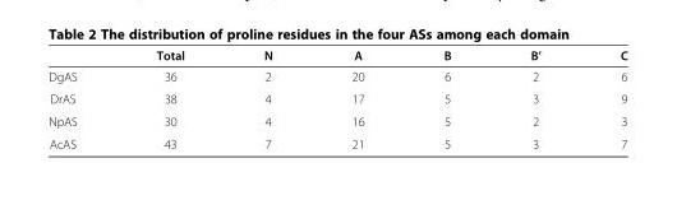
<table><thead><tr><td></td><td>Total</td><td>N</td><td>A</td><td>B</td><td>B’</td><td>C</td></tr></thead><tbody><tr><td>DgAS</td><td>36</td><td>2</td><td>20</td><td>6</td><td>2</td><td>6</td></tr><tr><td>DrAS</td><td>38</td><td>4</td><td>17</td><td>5</td><td>3</td><td>9</td></tr><tr><td>NpAS</td><td>30</td><td>4</td><td>16</td><td>5</td><td>2</td><td>3</td></tr><tr><td>AcAS</td><td>43</td><td>7</td><td>21</td><td>5</td><td>3</td><td>7</td></tr></tbody></table>